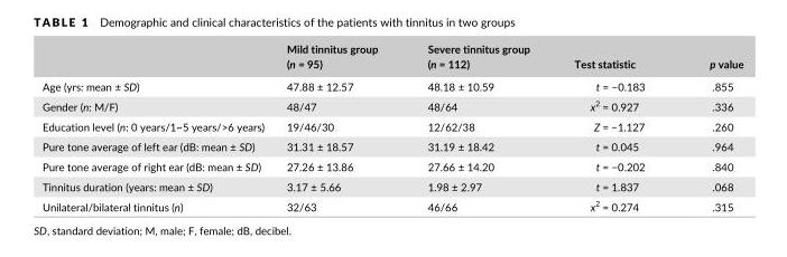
<table><thead><tr><td></td><td>Mild tinnitus group (n = 95)</td><td>Severe tinnitus group (n = 112)</td><td>Test statistic</td><td>p value</td></tr></thead><tbody><tr><td>Age (yrs: mean ± SD)</td><td>47.88 ± 12.57</td><td>48.18 ± 10.59</td><td>t = −0.183</td><td>.855</td></tr><tr><td>Gender (n: M/F)</td><td>48/47</td><td>48/64</td><td>x<sup>2</sup> = 0.927</td><td>.336</td></tr><tr><td>Education level (n: 0 years/1~5 years/&gt;6 years)</td><td>19/46/30</td><td>12/62/38</td><td>Z = −1.127</td><td>.260</td></tr><tr><td>Pure tone average of left ear (dB: mean ± SD)</td><td>31.31 ± 18.57</td><td>31.19 ± 18.42</td><td>t = 0.045</td><td>.964</td></tr><tr><td>Pure tone average of right ear (dB: mean ± SD)</td><td>27.26 ± 13.86</td><td>27.66 ± 14.20</td><td>t = −0.202</td><td>.840</td></tr><tr><td>Tinnitus duration (years: mean ± SD)</td><td>3.17 ± 5.66</td><td>1.98 ± 2.97</td><td>t = 1.837</td><td>.068</td></tr><tr><td>Unilateral/bilateral tinnitus (n)</td><td>32/63</td><td>46/66</td><td>x<sup>2</sup> = 0.274</td><td>.315</td></tr></tbody></table>